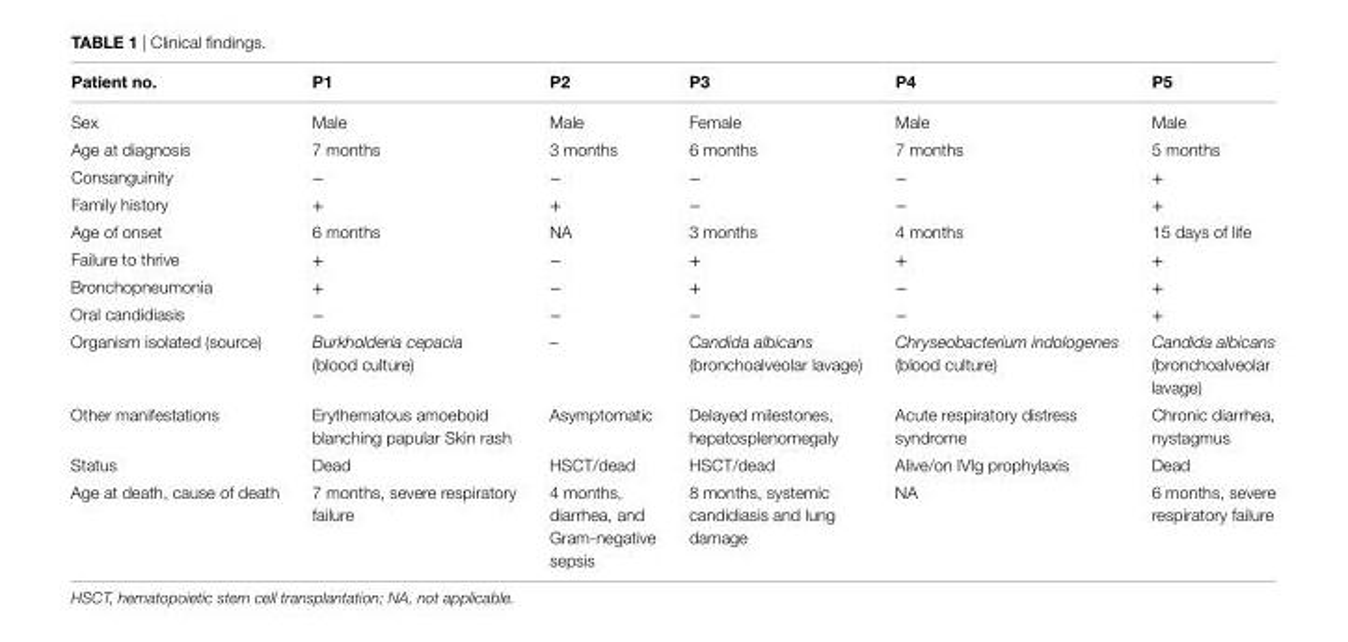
<table><thead><tr><td>Patient no.</td><td>P1</td><td>P2</td><td>P3</td><td>P4</td><td>P5</td></tr></thead><tbody><tr><td>Sex</td><td>Male</td><td>Male</td><td>Female</td><td>Male</td><td>Male</td></tr><tr><td>Age at diagnosis</td><td>7 months</td><td>3 months</td><td>6 months</td><td>7 months</td><td>5 months</td></tr><tr><td>Consanguinity</td><td>−</td><td>−</td><td>−</td><td>−</td><td>+</td></tr><tr><td>Family history</td><td>+</td><td>+</td><td>−</td><td>−</td><td>+</td></tr><tr><td>Age of onset</td><td>6 months</td><td>NA</td><td>3 months</td><td>4 months</td><td>15 days of life</td></tr><tr><td>Failure to thrive</td><td>+</td><td>−</td><td>+</td><td>+</td><td>+</td></tr><tr><td>Bronchopneumonia</td><td>+</td><td>−</td><td>+</td><td>−</td><td>+</td></tr><tr><td>Oral candidiasis</td><td>−</td><td>−</td><td>−</td><td>−</td><td>+</td></tr><tr><td>Organism isolated (source)</td><td>Burkholderia cepacia (blood culture)</td><td>–</td><td>Candida albicans (bronchoalveolar lavage)</td><td>Chryseobacterium indologenes (blood culture)</td><td>Candida albicans (bronchoalveolar lavage)</td></tr><tr><td>Other manifestations</td><td>Erythematous amoeboid blanching papular Skin rash</td><td>Asymptomatic</td><td>Delayed milestones, hepatosplenomegaly</td><td>Acute respiratory distress syndrome</td><td>Chronic diarrhea, nystagmus</td></tr><tr><td>Status</td><td>Dead</td><td>HSCT/dead</td><td>HSCT/dead</td><td>Alive/on IVIg prophylaxis</td><td>Dead</td></tr><tr><td>Age at death, cause of death</td><td>7 months, severe respiratory failure</td><td>4 months, diarrhea, and Gram-negative sepsis</td><td>8 months, systemic candidiasis and lung damage</td><td>NA</td><td>6 months, severe respiratory failure</td></tr></tbody></table>